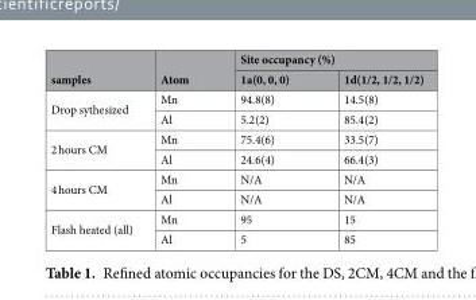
<table><thead><tr><td rowspan="2">samples</td><td rowspan="2">Atom</td><td colspan="2">Site occupancy (%)</td></tr><tr><td>1a(0, 0, 0)</td><td>1d(1/2, 1/2, 1/2)</td></tr></thead><tbody><tr><td rowspan="2">Drop sythesized</td><td>Mn</td><td>94.8(8)</td><td>14.5(8)</td></tr><tr><td>Al</td><td>5.2(2)</td><td>85.4(2)</td></tr><tr><td rowspan="2">2 hours CM</td><td>Mn</td><td>75.4(6)</td><td>33.5(7)</td></tr><tr><td>Al</td><td>24.6(4)</td><td>66.4(3)</td></tr><tr><td rowspan="2">4 hours CM</td><td>Mn</td><td>N/A</td><td>N/A</td></tr><tr><td>Al</td><td>N/A</td><td>N/A</td></tr><tr><td rowspan="2">Flash heated (all)</td><td>Mn</td><td>95</td><td>15</td></tr><tr><td>Al</td><td>5</td><td>85</td></tr></tbody></table>